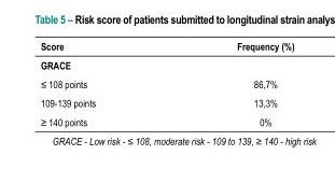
<table><thead><tr><td>Score</td><td>Frequency (%)</td></tr></thead><tbody><tr><td colspan="2">GRACE</td></tr><tr><td>≤ 108 points</td><td>86,7%</td></tr><tr><td>109-139 points</td><td>13,3%</td></tr><tr><td>≥ 140 points</td><td>0%</td></tr></tbody></table>